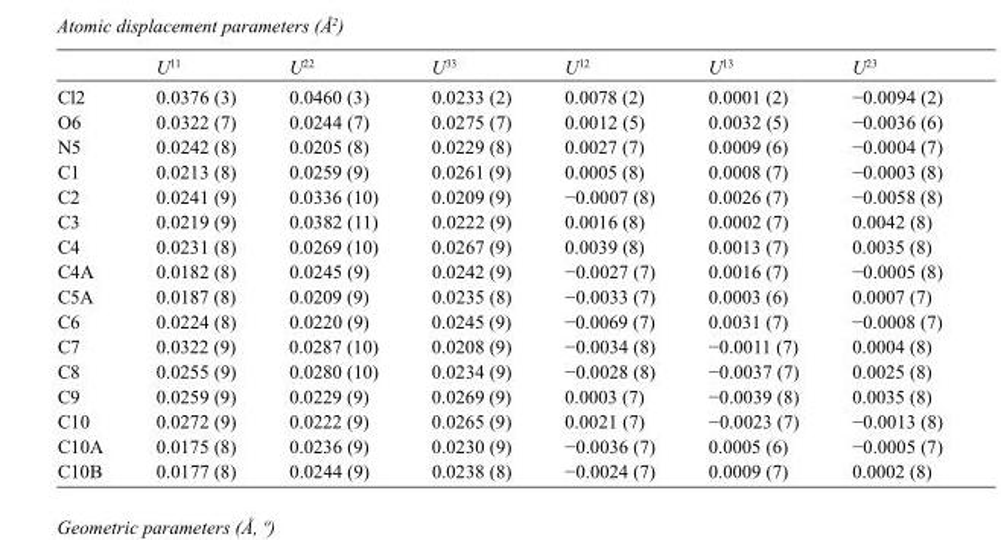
<table><thead><tr><td></td><td>U<sup>11</sup></td><td>U<sup>22</sup></td><td>U<sup>33</sup></td><td>U<sup>12</sup></td><td>U<sup>13</sup></td><td>U<sup>23</sup></td></tr></thead><tbody><tr><td>Cl2</td><td>0.0376 (3)</td><td>0.0460 (3)</td><td>0.0233 (2)</td><td>0.0078 (2)</td><td>0.0001 (2)</td><td>−0.0094 (2)</td></tr><tr><td>O6</td><td>0.0322 (7)</td><td>0.0244 (7)</td><td>0.0275 (7)</td><td>0.0012 (5)</td><td>0.0032 (5)</td><td>−0.0036 (6)</td></tr><tr><td>N5</td><td>0.0242 (8)</td><td>0.0205 (8)</td><td>0.0229 (8)</td><td>0.0027 (7)</td><td>0.0009 (6)</td><td>−0.0004 (7)</td></tr><tr><td>C1</td><td>0.0213 (8)</td><td>0.0259 (9)</td><td>0.0261 (9)</td><td>0.0005 (8)</td><td>0.0008 (7)</td><td>−0.0003 (8)</td></tr><tr><td>C2</td><td>0.0241 (9)</td><td>0.0336 (10)</td><td>0.0209 (9)</td><td>−0.0007 (8)</td><td>0.0026 (7)</td><td>−0.0058 (8)</td></tr><tr><td>C3</td><td>0.0219 (9)</td><td>0.0382 (11)</td><td>0.0222 (9)</td><td>0.0016 (8)</td><td>0.0002 (7)</td><td>0.0042 (8)</td></tr><tr><td>C4</td><td>0.0231 (8)</td><td>0.0269 (10)</td><td>0.0267 (9)</td><td>0.0039 (8)</td><td>0.0013 (7)</td><td>0.0035 (8)</td></tr><tr><td>C4A</td><td>0.0182 (8)</td><td>0.0245 (9)</td><td>0.0242 (9)</td><td>−0.0027 (7)</td><td>0.0016 (7)</td><td>−0.0005 (8)</td></tr><tr><td>C5A</td><td>0.0187 (8)</td><td>0.0209 (9)</td><td>0.0235 (8)</td><td>−0.0033 (7)</td><td>0.0003 (6)</td><td>0.0007 (7)</td></tr><tr><td>C6</td><td>0.0224 (8)</td><td>0.0220 (9)</td><td>0.0245 (9)</td><td>−0.0069 (7)</td><td>0.0031 (7)</td><td>−0.0008 (7)</td></tr><tr><td>C7</td><td>0.0322 (9)</td><td>0.0287 (10)</td><td>0.0208 (9)</td><td>−0.0034 (8)</td><td>−0.0011 (7)</td><td>0.0004 (8)</td></tr><tr><td>C8</td><td>0.0255 (9)</td><td>0.0280 (10)</td><td>0.0234 (9)</td><td>−0.0028 (8)</td><td>−0.0037 (7)</td><td>0.0025 (8)</td></tr><tr><td>C9</td><td>0.0259 (9)</td><td>0.0229 (9)</td><td>0.0269 (9)</td><td>0.0003 (7)</td><td>−0.0039 (8)</td><td>0.0035 (8)</td></tr><tr><td>C10</td><td>0.0272 (9)</td><td>0.0222 (9)</td><td>0.0265 (9)</td><td>0.0021 (7)</td><td>−0.0023 (7)</td><td>−0.0013 (8)</td></tr><tr><td>C10A</td><td>0.0175 (8)</td><td>0.0236 (9)</td><td>0.0230 (9)</td><td>−0.0036 (7)</td><td>0.0005 (6)</td><td>−0.0005 (7)</td></tr><tr><td>C10B</td><td>0.0177 (8)</td><td>0.0244 (9)</td><td>0.0238 (8)</td><td>−0.0024 (7)</td><td>0.0009 (7)</td><td>0.0002 (8)</td></tr></tbody></table>